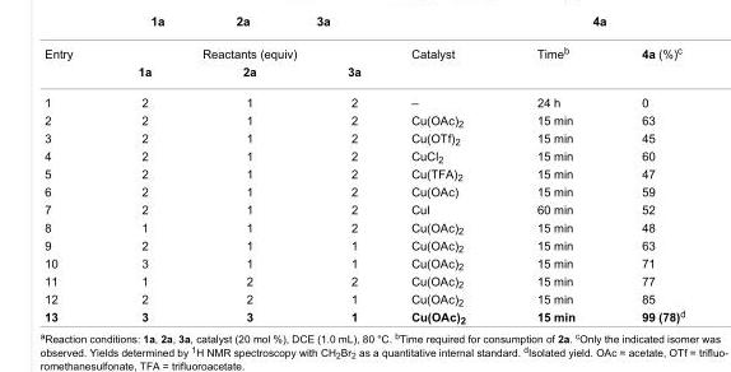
<table><tbody><tr><td rowspan="2">Entry</td><td colspan="3">Reactants (equiv)</td><td rowspan="2">Catalyst</td><td rowspan="2">Time<sup>b</sup></td><td rowspan="2">4a (%)<sup>c</sup></td></tr><tr><td>1a</td><td>2a</td><td>3a</td></tr><tr><td>1</td><td>2</td><td>1</td><td>2</td><td>–</td><td>24 h</td><td>0</td></tr><tr><td>2</td><td>2</td><td>1</td><td>2</td><td>Cu(OAc)<sub>2</sub></td><td>15 min</td><td>63</td></tr><tr><td>3</td><td>2</td><td>1</td><td>2</td><td>Cu(OTf)<sub>2</sub></td><td>15 min</td><td>45</td></tr><tr><td>4</td><td>2</td><td>1</td><td>2</td><td>CuCl<sub>2</sub></td><td>15 min</td><td>60</td></tr><tr><td>5</td><td>2</td><td>1</td><td>2</td><td>Cu(TFA)<sub>2</sub></td><td>15 min</td><td>47</td></tr><tr><td>6</td><td>2</td><td>1</td><td>2</td><td>Cu(OAc)</td><td>15 min</td><td>59</td></tr><tr><td>7</td><td>2</td><td>1</td><td>2</td><td>CuI</td><td>60 min</td><td>52</td></tr><tr><td>8</td><td>1</td><td>1</td><td>2</td><td>Cu(OAc)<sub>2</sub></td><td>15 min</td><td>48</td></tr><tr><td>9</td><td>2</td><td>1</td><td>1</td><td>Cu(OAc)<sub>2</sub></td><td>15 min</td><td>63</td></tr><tr><td>10</td><td>3</td><td>1</td><td>1</td><td>Cu(OAc)<sub>2</sub></td><td>15 min</td><td>71</td></tr><tr><td>11</td><td>1</td><td>2</td><td>2</td><td>Cu(OAc)<sub>2</sub></td><td>15 min</td><td>77</td></tr><tr><td>12</td><td>2</td><td>2</td><td>1</td><td>Cu(OAc)<sub>2</sub></td><td>15 min</td><td>85</td></tr><tr><td>13</td><td>3</td><td>3</td><td>1</td><td>Cu(OAc)<sub>2</sub></td><td>15 min</td><td>99 (78)<sup>d</sup></td></tr></tbody></table>